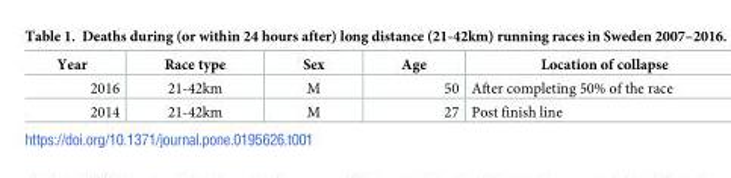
<table><thead><tr><td>Year</td><td>Race type</td><td>Sex</td><td>Age</td><td>Location of collapse</td></tr></thead><tbody><tr><td>2016</td><td>21-42km</td><td>M</td><td>50</td><td>After completing 50% of the race</td></tr><tr><td>2014</td><td>21-42km</td><td>M</td><td>27</td><td>Post finish line</td></tr></tbody></table>